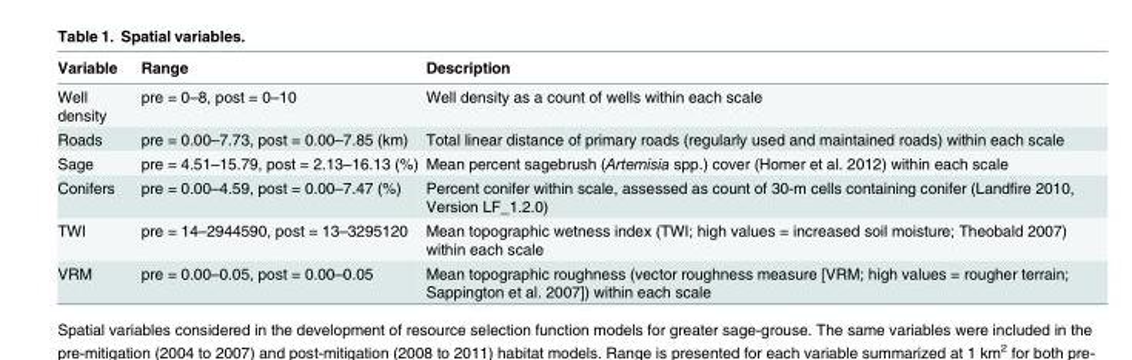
<table><thead><tr><td>Variable</td><td>Range</td><td>Description</td></tr></thead><tbody><tr><td>Well density</td><td>pre = 0–8, post = 0–10</td><td>Well density as a count of wells within each scale</td></tr><tr><td>Roads</td><td>pre = 0.00–7.73, post = 0.00–7.85 (km)</td><td>Total linear distance of primary roads (regularly used and maintained roads) within each scale</td></tr><tr><td>Sage</td><td>pre = 4.51–15.79, post = 2.13–16.13 (%)</td><td>Mean percent sagebrush (Artemisia spp.) cover (Homer et al. 2012) within each scale</td></tr><tr><td>Conifers</td><td>pre = 0.00–4.59, post = 0.00–7.47 (%)</td><td>Percent conifer within scale, assessed as count of 30-m cells containing conifer (Landfire 2010, Version LF_1.2.0)</td></tr><tr><td>TWI</td><td>pre = 14–2944590, post = 13–3295120</td><td>Mean topographic wetness index (TWI; high values = increased soil moisture; Theobald 2007) within each scale</td></tr><tr><td>VRM</td><td>pre = 0.00–0.05, post = 0.00–0.05</td><td>Mean topographic roughness (vector roughness measure [VRM; high values = rougher terrain; Sappington et al. 2007]) within each scale</td></tr></tbody></table>